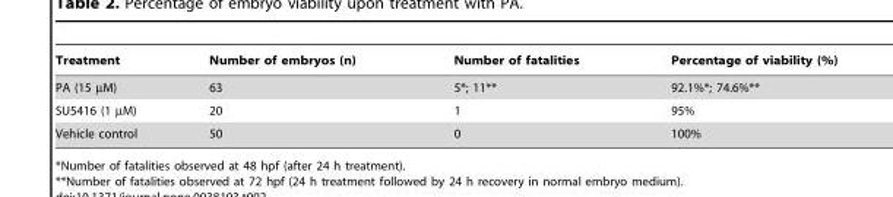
<table><thead><tr><td>Treatment</td><td>Number of embryos (n)</td><td>Number of fatalities</td><td>Percentage of viability (%)</td></tr></thead><tbody><tr><td>PA (15 µM)</td><td>63</td><td>5*; 11**</td><td>92.1%*; 74.6%**</td></tr><tr><td>SU5416 (1 µM)</td><td>20</td><td>1</td><td>95%</td></tr><tr><td>Vehicle control</td><td>50</td><td>0</td><td>100%</td></tr></tbody></table>